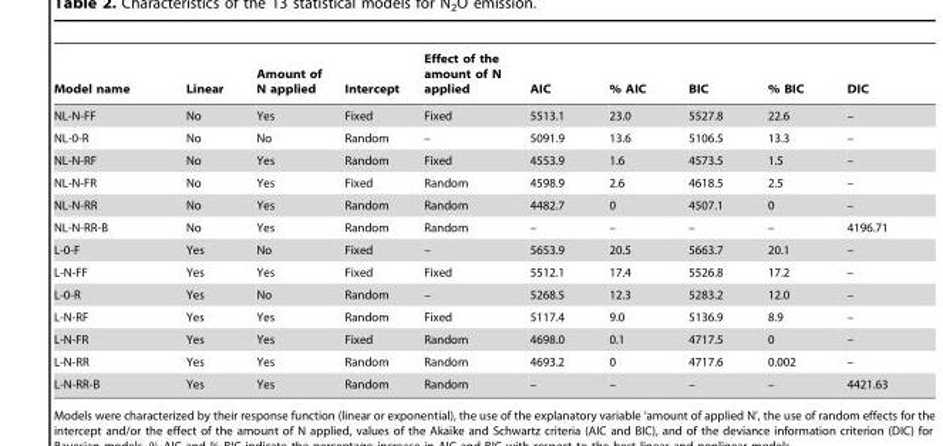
<table><thead><tr><td>Model name</td><td>Linear</td><td>Amount of N applied</td><td>Intercept</td><td>Effect of the amount of N applied</td><td>AIC</td><td>% AIC</td><td>BIC</td><td>% BIC</td><td>DIC</td></tr></thead><tbody><tr><td>NL-N-FF</td><td>No</td><td>Yes</td><td>Fixed</td><td>Fixed</td><td>5513.1</td><td>23.0</td><td>5527.8</td><td>22.6</td><td>–</td></tr><tr><td>NL-0-R</td><td>No</td><td>No</td><td>Random</td><td>–</td><td>5091.9</td><td>13.6</td><td>5106.5</td><td>13.3</td><td>–</td></tr><tr><td>NL-N-RF</td><td>No</td><td>Yes</td><td>Random</td><td>Fixed</td><td>4553.9</td><td>1.6</td><td>4573.5</td><td>1.5</td><td>–</td></tr><tr><td>NL-N-FR</td><td>No</td><td>Yes</td><td>Fixed</td><td>Random</td><td>4598.9</td><td>2.6</td><td>4618.5</td><td>2.5</td><td>–</td></tr><tr><td>NL-N-RR</td><td>No</td><td>Yes</td><td>Random</td><td>Random</td><td>4482.7</td><td>0</td><td>4507.1</td><td>0</td><td>–</td></tr><tr><td>NL-N-RR-B</td><td>No</td><td>Yes</td><td>Random</td><td>Random</td><td>–</td><td>–</td><td>–</td><td>–</td><td>4196.71</td></tr><tr><td>L-0-F</td><td>Yes</td><td>No</td><td>Fixed</td><td>–</td><td>5653.9</td><td>20.5</td><td>5663.7</td><td>20.1</td><td>–</td></tr><tr><td>L-N-FF</td><td>Yes</td><td>Yes</td><td>Fixed</td><td>Fixed</td><td>5512.1</td><td>17.4</td><td>5526.8</td><td>17.2</td><td>–</td></tr><tr><td>L-0-R</td><td>Yes</td><td>No</td><td>Random</td><td>–</td><td>5268.5</td><td>12.3</td><td>5283.2</td><td>12.0</td><td>–</td></tr><tr><td>L-N-RF</td><td>Yes</td><td>Yes</td><td>Random</td><td>Fixed</td><td>5117.4</td><td>9.0</td><td>5136.9</td><td>8.9</td><td>–</td></tr><tr><td>L-N-FR</td><td>Yes</td><td>Yes</td><td>Fixed</td><td>Random</td><td>4698.0</td><td>0.1</td><td>4717.5</td><td>0</td><td>–</td></tr><tr><td>L-N-RR</td><td>Yes</td><td>Yes</td><td>Random</td><td>Random</td><td>4693.2</td><td>0</td><td>4717.6</td><td>0.002</td><td>–</td></tr><tr><td>L-N-RR-B</td><td>Yes</td><td>Yes</td><td>Random</td><td>Random</td><td>–</td><td>–</td><td>–</td><td>–</td><td>4421.63</td></tr></tbody></table>